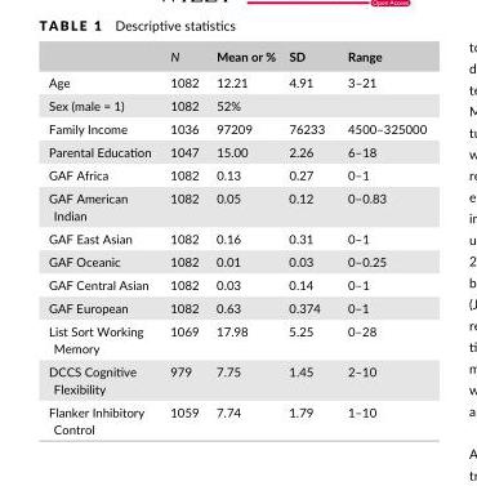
<table><thead><tr><td></td><td>N</td><td>Mean or %</td><td>SD</td><td>Range</td></tr></thead><tbody><tr><td>Age</td><td>1082</td><td>12.21</td><td>4.91</td><td>3–21</td></tr><tr><td>Sex (male = 1)</td><td>1082</td><td>52%</td><td></td><td></td></tr><tr><td>Family Income</td><td>1036</td><td>97209</td><td>76233</td><td>4500–325000</td></tr><tr><td>Parental Education</td><td>1047</td><td>15.00</td><td>2.26</td><td>6–18</td></tr><tr><td>GAF Africa</td><td>1082</td><td>0.13</td><td>0.27</td><td>0–1</td></tr><tr><td>GAF American Indian</td><td>1082</td><td>0.05</td><td>0.12</td><td>0–0.83</td></tr><tr><td>GAF East Asian</td><td>1082</td><td>0.16</td><td>0.31</td><td>0–1</td></tr><tr><td>GAF Oceanic</td><td>1082</td><td>0.01</td><td>0.03</td><td>0–0.25</td></tr><tr><td>GAF Central Asian</td><td>1082</td><td>0.03</td><td>0.14</td><td>0–1</td></tr><tr><td>GAF European</td><td>1082</td><td>0.63</td><td>0.374</td><td>0–1</td></tr><tr><td>List Sort Working Memory</td><td>1069</td><td>17.98</td><td>5.25</td><td>0–28</td></tr><tr><td>DCCS Cognitive Flexibility</td><td>979</td><td>7.75</td><td>1.45</td><td>2–10</td></tr><tr><td>Flanker Inhibitory Control</td><td>1059</td><td>7.74</td><td>1.79</td><td>1–10</td></tr></tbody></table>